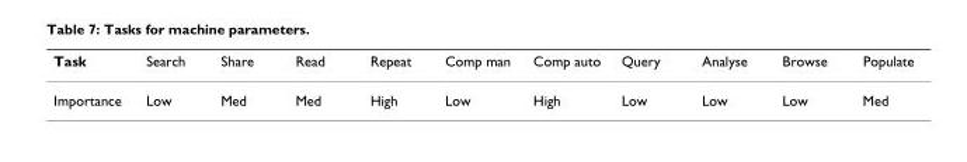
<table><thead><tr><td>Task</td><td>Search</td><td>Share</td><td>Read</td><td>Repeat</td><td>Comp man</td><td>Comp auto</td><td>Query</td><td>Analyse</td><td>Browse</td><td>Populate</td></tr></thead><tbody><tr><td>Importance</td><td>Low</td><td>Med</td><td>Med</td><td>High</td><td>Low</td><td>High</td><td>Low</td><td>Low</td><td>Low</td><td>Med</td></tr></tbody></table>